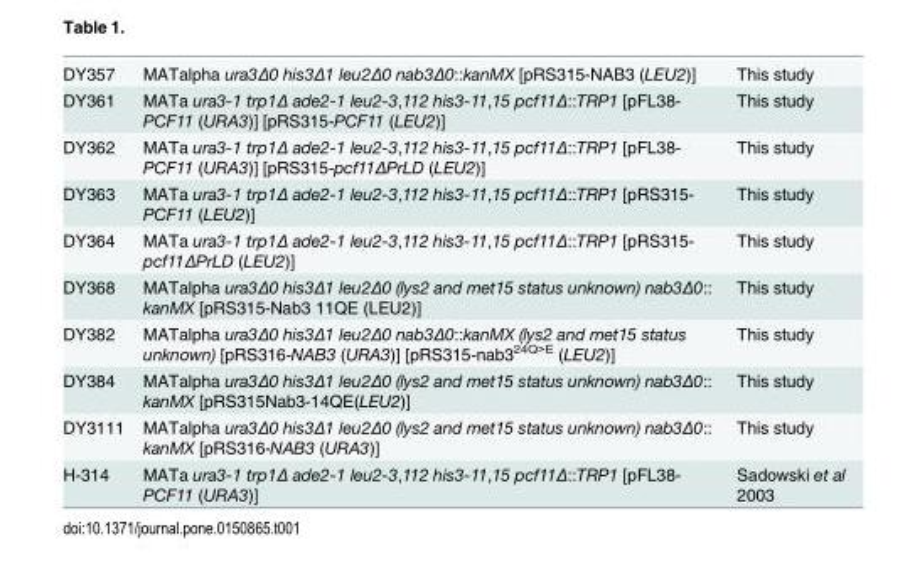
<table><tbody><tr><td>DY357</td><td>MATalpha ura3Δ0 his3Δ1 leu2Δ0 nab3Δ0::kanMX [pRS315-NAB3 (LEU2)]</td><td>This study</td></tr><tr><td>DY361</td><td>MATa ura3-1 trp1Δ ade2-1 leu2-3,112 his3-11,15 pcf11Δ::TRP1 [pFL38- PCF11 (URA3)] [pRS315-PCF11 (LEU2)]</td><td>This study</td></tr><tr><td>DY362</td><td>MATa ura3-1 trp1Δ ade2-1 leu2-3,112 his3-11,15 pcf11Δ::TRP1 [pFL38- PCF11 (URA3)] [pRS315-pcf11ΔPrLD (LEU2)]</td><td>This study</td></tr><tr><td>DY363</td><td>MATa ura3-1 trp1Δ ade2-1 leu2-3,112 his3-11,15 pcf11Δ::TRP1 [pRS315- PCF11 (LEU2)]</td><td>This study</td></tr><tr><td>DY364</td><td>MATa ura3-1 trp1Δ ade2-1 leu2-3,112 his3-11,15 pcf11Δ::TRP1 [pRS315- pcf11ΔPrLD (LEU2)]</td><td>This study</td></tr><tr><td>DY368</td><td>MATalpha ura3Δ0 his3Δ1 leu2Δ0 (lys2 and met15 status unknown) nab3Δ0:: kanMX [pRS315-Nab3 11QE (LEU2)]</td><td>This study</td></tr><tr><td>DY382</td><td>MATalpha ura3Δ0 his3Δ1 leu2Δ0 nab3Δ0::kanMX (lys2 and met15 status unknown) [pRS316-NAB3 (URA3)] [pRS315-nab3<sup>24Q&gt;E</sup> (LEU2)]</td><td>This study</td></tr><tr><td>DY384</td><td>MATalpha ura3Δ0 his3Δ1 leu2Δ0 (lys2 and met15 status unknown) nab3Δ0:: kanMX [pRS315Nab3-14QE(LEU2)]</td><td>This study</td></tr><tr><td>DY3111</td><td>MATalpha ura3Δ0 his3Δ1 leu2Δ0 (lys2 and met15 status unknown) nab3Δ0:: kanMX [pRS316-NAB3 (URA3)]</td><td>This study</td></tr><tr><td>H-314</td><td>MATa ura3-1 trp1Δ ade2-1 leu2-3,112 his3-11,15 pcf11Δ::TRP1 [pFL38- PCF11 (URA3)]</td><td>Sadowski et al 2003</td></tr></tbody></table>